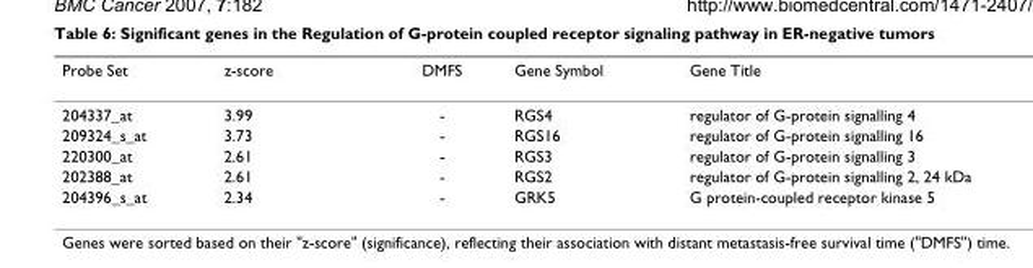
<table><thead><tr><td>Probe Set</td><td>z-score</td><td>DMFS</td><td>Gene Symbol</td><td>Gene Title</td></tr></thead><tbody><tr><td>204337_at</td><td>3.99</td><td>-</td><td>RGS4</td><td>regulator of G-protein signalling 4</td></tr><tr><td>209324_s_at</td><td>3.73</td><td>-</td><td>RGS16</td><td>regulator of G-protein signalling 16</td></tr><tr><td>220300_at</td><td>2.61</td><td>-</td><td>RGS3</td><td>regulator of G-protein signalling 3</td></tr><tr><td>202388_at</td><td>2.61</td><td>-</td><td>RGS2</td><td>regulator of G-protein signalling 2, 24 kDa</td></tr><tr><td>204396_s_at</td><td>2.34</td><td>-</td><td>GRK5</td><td>G protein-coupled receptor kinase 5</td></tr></tbody></table>